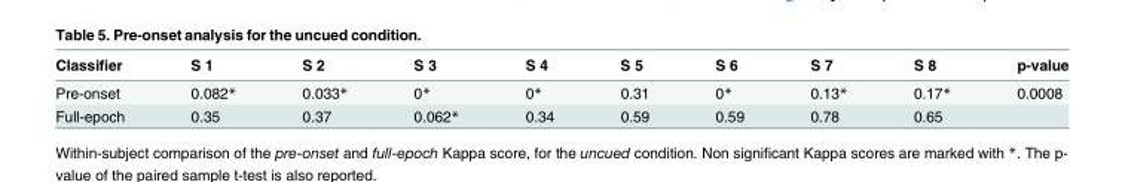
<table><thead><tr><td>Classifier</td><td>S 1</td><td>S 2</td><td>S 3</td><td>S 4</td><td>S 5</td><td>S 6</td><td>S 7</td><td>S 8</td><td>p-value</td></tr></thead><tbody><tr><td>Pre-onset</td><td>0.082*</td><td>0.033*</td><td>0*</td><td>0*</td><td>0.31</td><td>0*</td><td>0.13*</td><td>0.17*</td><td>0.0008</td></tr><tr><td>Full-epoch</td><td>0.35</td><td>0.37</td><td>0.062*</td><td>0.34</td><td>0.59</td><td>0.59</td><td>0.78</td><td>0.65</td><td></td></tr></tbody></table>